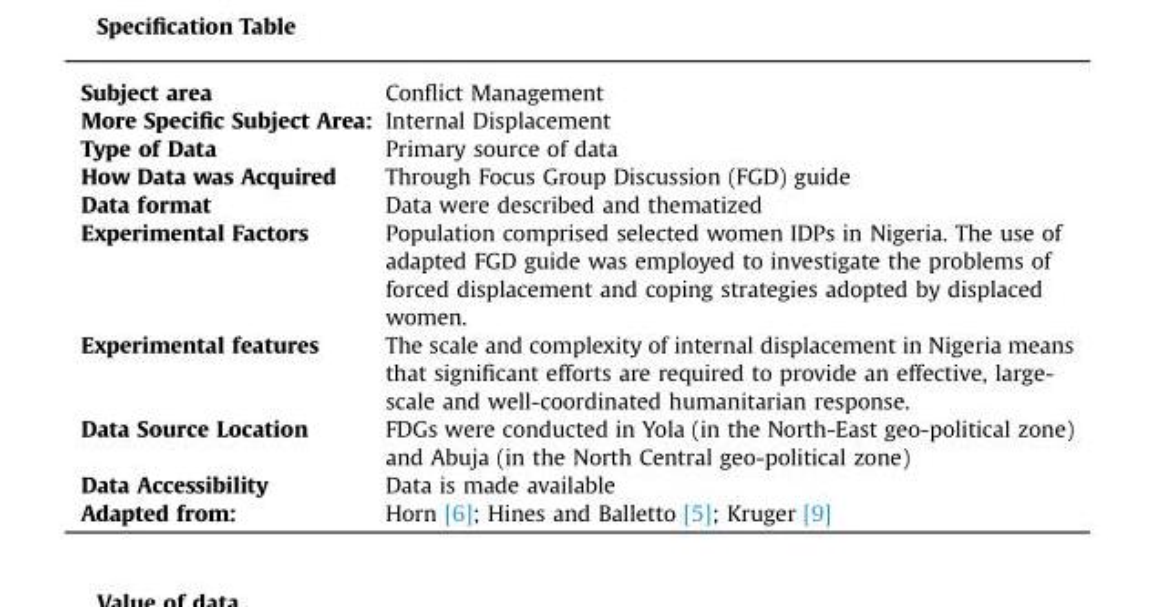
<table><tbody><tr><td>Subject area</td><td>Conflict Management</td></tr><tr><td>More Specific Subject Area:</td><td>Internal Displacement</td></tr><tr><td>Type of Data</td><td>Primary source of data</td></tr><tr><td>How Data was Acquired</td><td>Through Focus Group Discussion (FGD) guide</td></tr><tr><td>Data format</td><td>Data were described and thematized</td></tr><tr><td>Experimental Factors</td><td>Population comprised selected women IDPs in Nigeria. The use of adapted FGD guide was employed to investigate the problems of forced displacement and coping strategies adopted by displaced women.</td></tr><tr><td>Experimental features</td><td>The scale and complexity of internal displacement in Nigeria means that significant efforts are required to provide an effective, large- scale and well-coordinated humanitarian response.</td></tr><tr><td>Data Source Location</td><td>FDGs were conducted in Yola (in the North-East geo-political zone) and Abuja (in the North Central geo-political zone)</td></tr><tr><td>Data Accessibility</td><td>Data is made available</td></tr><tr><td>Adapted from:</td><td>Horn [6]; Hines and Balletto [5]; Kruger [9]</td></tr></tbody></table>